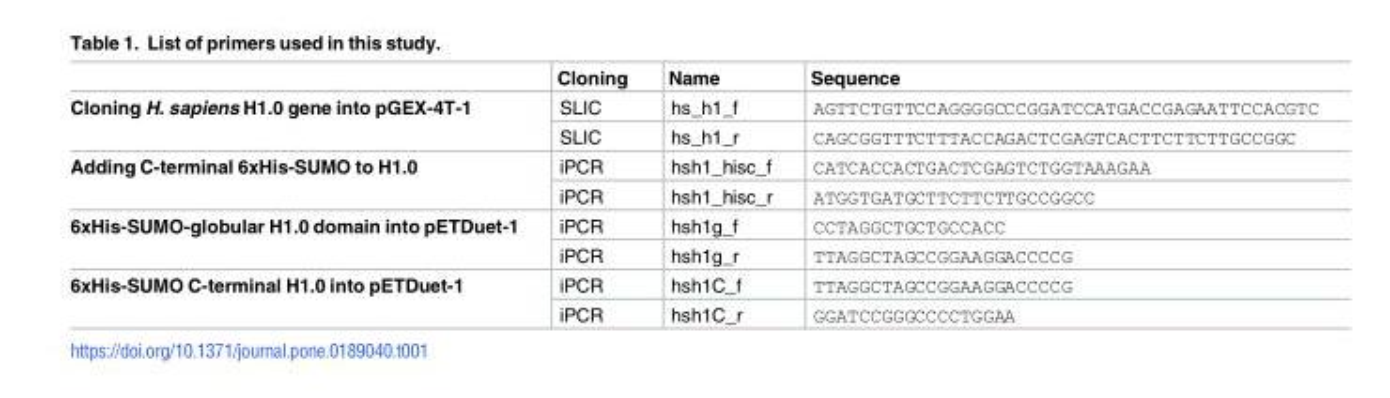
<table><thead><tr><td></td><td>Cloning</td><td>Name</td><td>Sequence</td></tr></thead><tbody><tr><td rowspan="2">Cloning H. sapiens H1.0 gene into pGEX-4T-1</td><td>SLIC</td><td>hs_h1_f</td><td>AGTTCTGTTCCAGGGGCCCGGATCCATGACCGAGAATTCCACGTC</td></tr><tr><td>SLIC</td><td>hs_h1_r</td><td>CAGCGGTTTCTTTACCAGACTCGAGTCACTTCTTCTTGCCGGC</td></tr><tr><td rowspan="2">Adding C-terminal 6xHis-SUMO to H1.0</td><td>iPCR</td><td>hsh1_hisc_f</td><td>CATCACCACTGACTCGAGTCTGGTAAAGAA</td></tr><tr><td>iPCR</td><td>hsh1_hisc_r</td><td>ATGGTGATGCTTCTTCTTGCCGGCC</td></tr><tr><td rowspan="2">6xHis-SUMO-globular H1.0 domain into pETDuet-1</td><td>iPCR</td><td>hsh1g_f</td><td>CCTAGGCTGCTGCCACC</td></tr><tr><td>iPCR</td><td>hsh1g_r</td><td>TTAGGCTAGCCGGAAGGACCCCG</td></tr><tr><td rowspan="2">6xHis-SUMO C-terminal H1.0 into pETDuet-1</td><td>iPCR</td><td>hsh1C_f</td><td>TTAGGCTAGCCGGAAGGACCCCG</td></tr><tr><td>iPCR</td><td>hsh1C_r</td><td>GGATCCGGGCCCCTGGAA</td></tr></tbody></table>